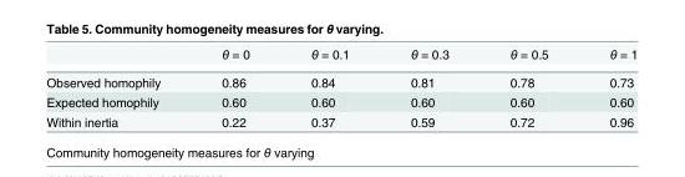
<table><thead><tr><td></td><td>θ = 0</td><td>θ = 0.1</td><td>θ = 0.3</td><td>θ = 0.5</td><td>θ = 1</td></tr></thead><tbody><tr><td>Observed homophily</td><td>0.86</td><td>0.84</td><td>0.81</td><td>0.78</td><td>0.73</td></tr><tr><td>Expected homophily</td><td>0.60</td><td>0.60</td><td>0.60</td><td>0.60</td><td>0.60</td></tr><tr><td>Within inertia</td><td>0.22</td><td>0.37</td><td>0.59</td><td>0.72</td><td>0.96</td></tr></tbody></table>